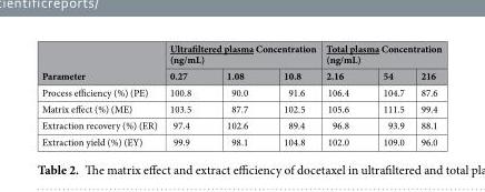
<table><thead><tr><td rowspan="2">Parameter</td><td colspan="3">Ultrafiltered plasma Concentration (ng/mL)</td><td colspan="3">Total plasma Concentration (ng/mL)</td></tr><tr><td>0.27</td><td>1.08</td><td>10.8</td><td>2.16</td><td>54</td><td>216</td></tr></thead><tbody><tr><td>Process efficiency (%) (PE)</td><td>100.8</td><td>90.0</td><td>91.6</td><td>106.4</td><td>104.7</td><td>87.6</td></tr><tr><td>Matrix effect (%) (ME)</td><td>103.5</td><td>87.7</td><td>102.5</td><td>105.6</td><td>111.5</td><td>99.4</td></tr><tr><td>Extraction recovery (%) (ER)</td><td>97.4</td><td>102.6</td><td>89.4</td><td>96.8</td><td>93.9</td><td>88.1</td></tr><tr><td>Extraction yield (%) (EY)</td><td>99.9</td><td>98.1</td><td>104.8</td><td>102.0</td><td>109.0</td><td>96.0</td></tr></tbody></table>